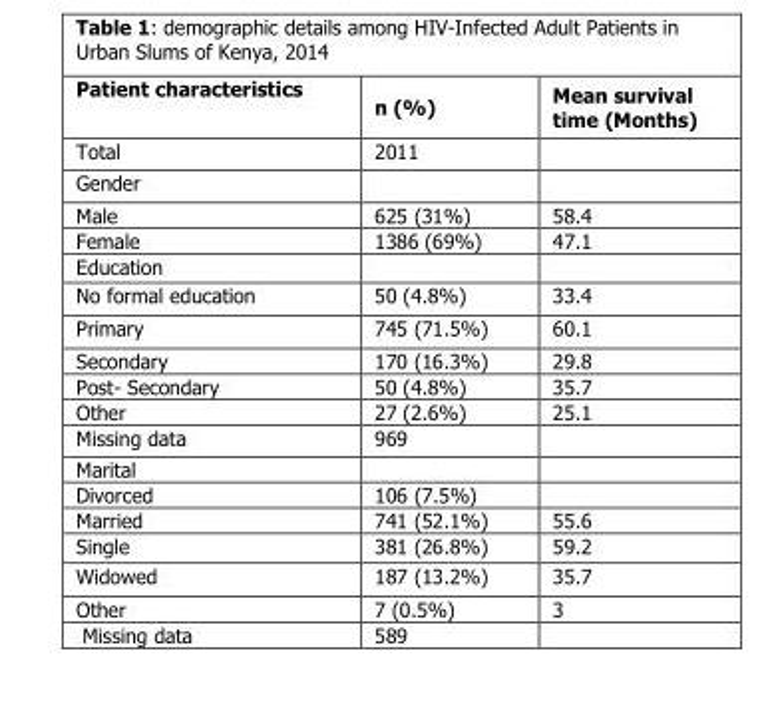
<table><thead><tr><td>Patient characteristics</td><td>n (%)</td><td>Mean survival time (Months)</td></tr></thead><tbody><tr><td>Total</td><td>2011</td><td></td></tr><tr><td colspan="3">Gender</td></tr><tr><td>Male</td><td>625 (31%)</td><td>58.4</td></tr><tr><td>Female</td><td>1386 (69%)</td><td>47.1</td></tr><tr><td colspan="3">Education</td></tr><tr><td>No formal education</td><td>50 (4.8%)</td><td>33.4</td></tr><tr><td>Primary</td><td>745 (71.5%)</td><td>60.1</td></tr><tr><td>Secondary</td><td>170 (16.3%)</td><td>29.8</td></tr><tr><td>Post- Secondary</td><td>50 (4.8%)</td><td>35.7</td></tr><tr><td>Other</td><td>27 (2.6%)</td><td>25.1</td></tr><tr><td>Missing data</td><td>969</td><td></td></tr><tr><td colspan="3">Marital</td></tr><tr><td>Divorced</td><td>106 (7.5%)</td><td></td></tr><tr><td>Married</td><td>741 (52.1%)</td><td>55.6</td></tr><tr><td>Single</td><td>381 (26.8%)</td><td>59.2</td></tr><tr><td>Widowed</td><td>187 (13.2%)</td><td>35.7</td></tr><tr><td>Other</td><td>7 (0.5%)</td><td>3</td></tr><tr><td>Missing data</td><td>589</td><td></td></tr></tbody></table>